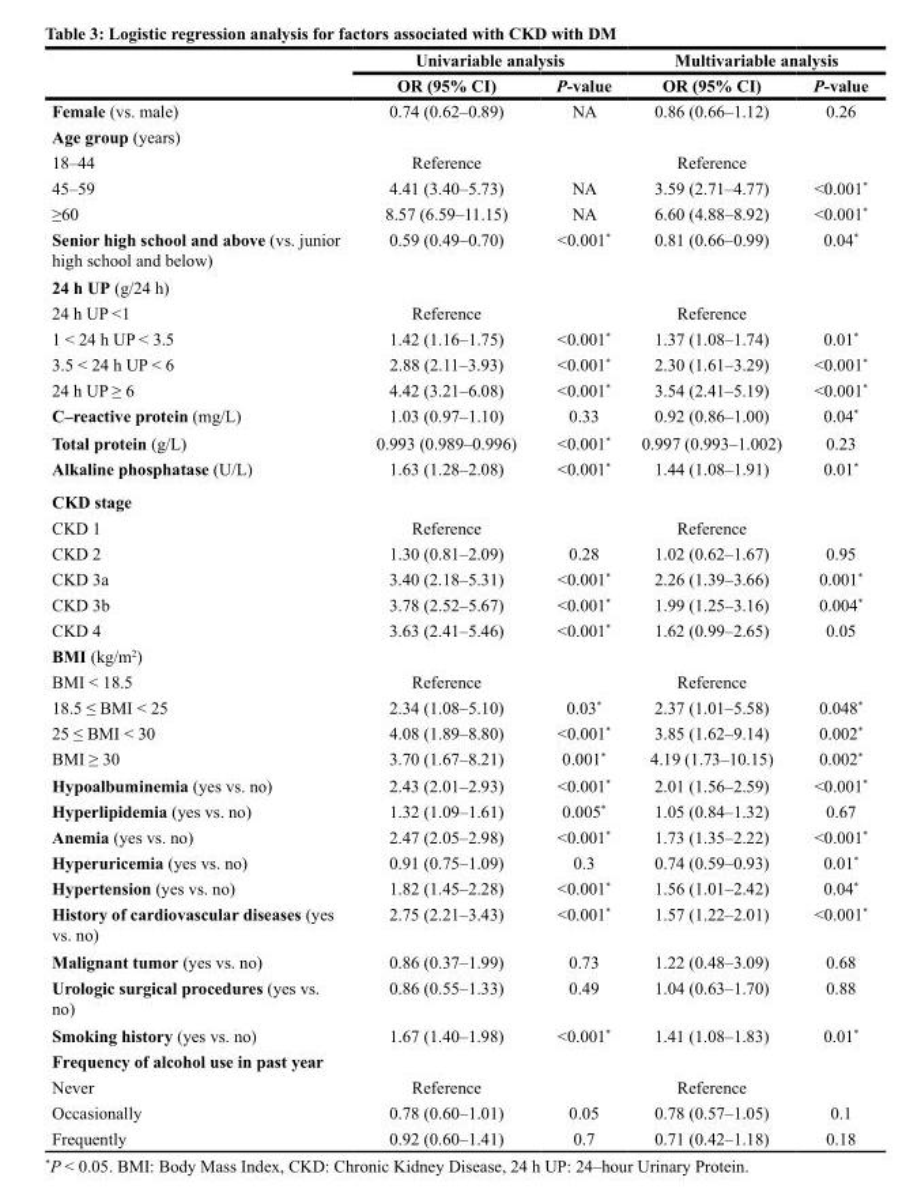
<table><thead><tr><td rowspan="2"></td><td colspan="2">Univariable analysis</td><td colspan="2">Multivariable analysis</td></tr><tr><td>OR (95% CI)</td><td>P-value</td><td>OR (95% CI)</td><td>P-value</td></tr></thead><tbody><tr><td>Female (vs. male)</td><td>0.74 (0.62–0.89)</td><td>NA</td><td>0.86 (0.66–1.12)</td><td>0.26</td></tr><tr><td colspan="5">Age group (years)</td></tr><tr><td>18–44</td><td>Reference</td><td></td><td>Reference</td><td></td></tr><tr><td>45–59</td><td>4.41 (3.40–5.73)</td><td>NA</td><td>3.59 (2.71–4.77)</td><td>&lt;0.001*</td></tr><tr><td>≥60</td><td>8.57 (6.59–11.15)</td><td>NA</td><td>6.60 (4.88–8.92)</td><td>&lt;0.001*</td></tr><tr><td>Senior high school and above (vs. junior high school and below)</td><td>0.59 (0.49–0.70)</td><td>&lt;0.001*</td><td>0.81 (0.66–0.99)</td><td>0.04*</td></tr><tr><td colspan="5">24 h UP (g/24 h)</td></tr><tr><td>24 h UP &lt;1</td><td>Reference</td><td></td><td>Reference</td><td></td></tr><tr><td>1 &lt; 24 h UP &lt; 3.5</td><td>1.42 (1.16–1.75)</td><td>&lt;0.001*</td><td>1.37 (1.08–1.74)</td><td>0.01*</td></tr><tr><td>3.5 &lt; 24 h UP &lt; 6</td><td>2.88 (2.11–3.93)</td><td>&lt;0.001*</td><td>2.30 (1.61–3.29)</td><td>&lt;0.001*</td></tr><tr><td>24 h UP ≥ 6</td><td>4.42 (3.21–6.08)</td><td>&lt;0.001*</td><td>3.54 (2.41–5.19)</td><td>&lt;0.001*</td></tr><tr><td>C–reactive protein (mg/L)</td><td>1.03 (0.97–1.10)</td><td>0.33</td><td>0.92 (0.86–1.00)</td><td>0.04*</td></tr><tr><td>Total protein (g/L)</td><td>0.993 (0.989–0.996)</td><td>&lt;0.001*</td><td>0.997 (0.993–1.002)</td><td>0.23</td></tr><tr><td>Alkaline phosphatase (U/L)</td><td>1.63 (1.28–2.08)</td><td>&lt;0.001*</td><td>1.44 (1.08–1.91)</td><td>0.01*</td></tr><tr><td colspan="5">CKD stage</td></tr><tr><td>CKD 1</td><td>Reference</td><td></td><td>Reference</td><td></td></tr><tr><td>CKD 2</td><td>1.30 (0.81–2.09)</td><td>0.28</td><td>1.02 (0.62–1.67)</td><td>0.95</td></tr><tr><td>CKD 3a</td><td>3.40 (2.18–5.31)</td><td>&lt;0.001*</td><td>2.26 (1.39–3.66)</td><td>0.001*</td></tr><tr><td>CKD 3b</td><td>3.78 (2.52–5.67)</td><td>&lt;0.001*</td><td>1.99 (1.25–3.16)</td><td>0.004*</td></tr><tr><td>CKD 4</td><td>3.63 (2.41–5.46)</td><td>&lt;0.001*</td><td>1.62 (0.99–2.65)</td><td>0.05</td></tr><tr><td colspan="5">BMI (kg/m<sup>2</sup>)</td></tr><tr><td>BMI &lt; 18.5</td><td>Reference</td><td></td><td>Reference</td><td></td></tr><tr><td>18.5 ≤ BMI &lt; 25</td><td>2.34 (1.08–5.10)</td><td>0.03*</td><td>2.37 (1.01–5.58)</td><td>0.048*</td></tr><tr><td>25 ≤ BMI &lt; 30</td><td>4.08 (1.89–8.80)</td><td>&lt;0.001*</td><td>3.85 (1.62–9.14)</td><td>0.002*</td></tr><tr><td>BMI ≥ 30</td><td>3.70 (1.67–8.21)</td><td>0.001*</td><td>4.19 (1.73–10.15)</td><td>0.002*</td></tr><tr><td>Hypoalbuminemia (yes vs. no)</td><td>2.43 (2.01–2.93)</td><td>&lt;0.001*</td><td>2.01 (1.56–2.59)</td><td>&lt;0.001*</td></tr><tr><td>Hyperlipidemia (yes vs. no)</td><td>1.32 (1.09–1.61)</td><td>0.005*</td><td>1.05 (0.84–1.32)</td><td>0.67</td></tr><tr><td>Anemia (yes vs. no)</td><td>2.47 (2.05–2.98)</td><td>&lt;0.001*</td><td>1.73 (1.35–2.22)</td><td>&lt;0.001*</td></tr><tr><td>Hyperuricemia (yes vs. no)</td><td>0.91 (0.75–1.09)</td><td>0.3</td><td>0.74 (0.59–0.93)</td><td>0.01*</td></tr><tr><td>Hypertension (yes vs. no)</td><td>1.82 (1.45–2.28)</td><td>&lt;0.001*</td><td>1.56 (1.01–2.42)</td><td>0.04*</td></tr><tr><td>History of cardiovascular diseases (yes vs. no)</td><td>2.75 (2.21–3.43)</td><td>&lt;0.001*</td><td>1.57 (1.22–2.01)</td><td>&lt;0.001*</td></tr><tr><td>Malignant tumor (yes vs. no)</td><td>0.86 (0.37–1.99)</td><td>0.73</td><td>1.22 (0.48–3.09)</td><td>0.68</td></tr><tr><td>Urologic surgical procedures (yes vs. no)</td><td>0.86 (0.55–1.33)</td><td>0.49</td><td>1.04 (0.63–1.70)</td><td>0.88</td></tr><tr><td>Smoking history (yes vs. no)</td><td>1.67 (1.40–1.98)</td><td>&lt;0.001*</td><td>1.41 (1.08–1.83)</td><td>0.01*</td></tr><tr><td colspan="5">Frequency of alcohol use in past year</td></tr><tr><td>Never</td><td>Reference</td><td></td><td>Reference</td><td></td></tr><tr><td>Occasionally</td><td>0.78 (0.60–1.01)</td><td>0.05</td><td>0.78 (0.57–1.05)</td><td>0.1</td></tr><tr><td>Frequently</td><td>0.92 (0.60–1.41)</td><td>0.7</td><td>0.71 (0.42–1.18)</td><td>0.18</td></tr></tbody></table>